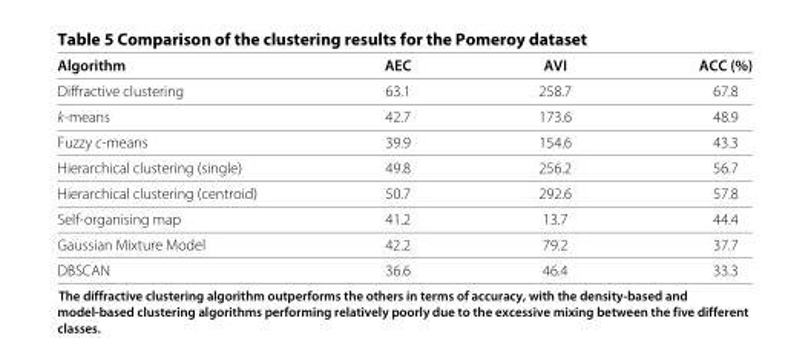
<table><thead><tr><td>Algorithm</td><td>AEC</td><td>AVI</td><td>ACC (%)</td></tr></thead><tbody><tr><td>Diffractive clustering</td><td>63.1</td><td>258.7</td><td>67.8</td></tr><tr><td>k-means</td><td>42.7</td><td>173.6</td><td>48.9</td></tr><tr><td>Fuzzy c-means</td><td>39.9</td><td>154.6</td><td>43.3</td></tr><tr><td>Hierarchical clustering (single)</td><td>49.8</td><td>256.2</td><td>56.7</td></tr><tr><td>Hierarchical clustering (centroid)</td><td>50.7</td><td>292.6</td><td>57.8</td></tr><tr><td>Self-organising map</td><td>41.2</td><td>13.7</td><td>44.4</td></tr><tr><td>Gaussian Mixture Model</td><td>42.2</td><td>79.2</td><td>37.7</td></tr><tr><td>DBSCAN</td><td>36.6</td><td>46.4</td><td>33.3</td></tr></tbody></table>